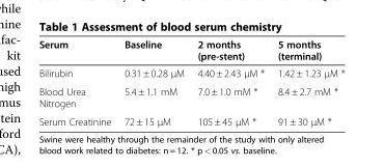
<table><thead><tr><td>Serum</td><td>Baseline</td><td>2 months (pre-stent)</td><td>5 months (terminal)</td></tr></thead><tbody><tr><td>Bilirubin</td><td>0.31 ± 0.28 μM</td><td>4.40 ± 2.43 μM *</td><td>1.42 ± 1.23 μM *</td></tr><tr><td>Blood Urea Nitrogen</td><td>5.4 ± 1.1 mM</td><td>7.0 ± 1.0 mM *</td><td>8.4 ± 2.7 mM *</td></tr><tr><td>Serum Creatinine</td><td>72 ± 15 μM</td><td>105 ± 45 μM *</td><td>91 ± 30 μM *</td></tr></tbody></table>